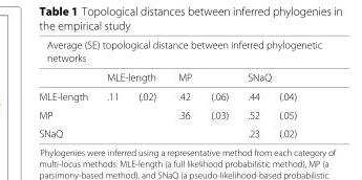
<table><thead><tr><td rowspan="2" colspan="7">Average (SE) topological distance between inferred phylogenetic networks</td></tr><tr></tr><tr><td rowspan="2">MLE-length</td><td colspan="2">MLE-length</td><td rowspan="2">MP .42</td><td rowspan="2">(.06)</td><td colspan="2">SNaQ</td></tr><tr><td>.11</td><td>(.02)</td><td>.44</td><td>(.04)</td></tr></thead><tbody><tr><td>MP</td><td></td><td></td><td>.36</td><td>(.03)</td><td>.52</td><td>(.05)</td></tr><tr><td>SNaQ</td><td></td><td></td><td></td><td></td><td>.23</td><td>(.02)</td></tr></tbody></table>